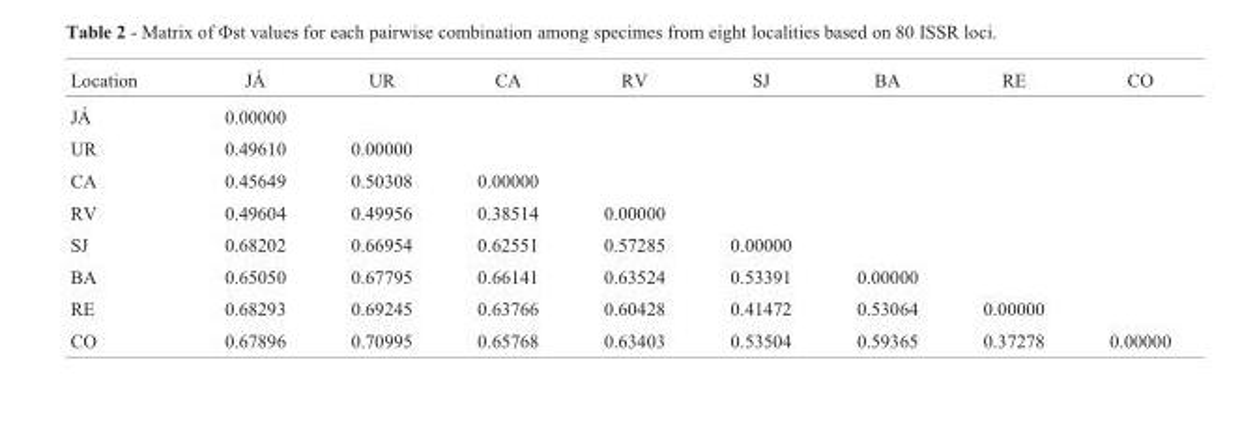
<table><thead><tr><td>Location</td><td>JÁ</td><td>UR</td><td>CA</td><td>RV</td><td>SJ</td><td>BA</td><td>RE</td><td>CO</td></tr></thead><tbody><tr><td>JÁ</td><td>0.00000</td><td></td><td></td><td></td><td></td><td></td><td></td><td></td></tr><tr><td>UR</td><td>0.49610</td><td>0.00000</td><td></td><td></td><td></td><td></td><td></td><td></td></tr><tr><td>CA</td><td>0.45649</td><td>0.50308</td><td>0.00000</td><td></td><td></td><td></td><td></td><td></td></tr><tr><td>RV</td><td>0.49604</td><td>0.49956</td><td>0.38514</td><td>0.00000</td><td></td><td></td><td></td><td></td></tr><tr><td>SJ</td><td>0.68202</td><td>0.66954</td><td>0.62551</td><td>0.57285</td><td>0.00000</td><td></td><td></td><td></td></tr><tr><td>BA</td><td>0.65050</td><td>0.67795</td><td>0.66141</td><td>0.63524</td><td>0.53391</td><td>0.00000</td><td></td><td></td></tr><tr><td>RE</td><td>0.68293</td><td>0.69245</td><td>0.63766</td><td>0.60428</td><td>0.41472</td><td>0.53064</td><td>0.00000</td><td></td></tr><tr><td>CO</td><td>0.67896</td><td>0.70995</td><td>0.65768</td><td>0.63403</td><td>0.53504</td><td>0.59365</td><td>0.37278</td><td>0.00000</td></tr></tbody></table>